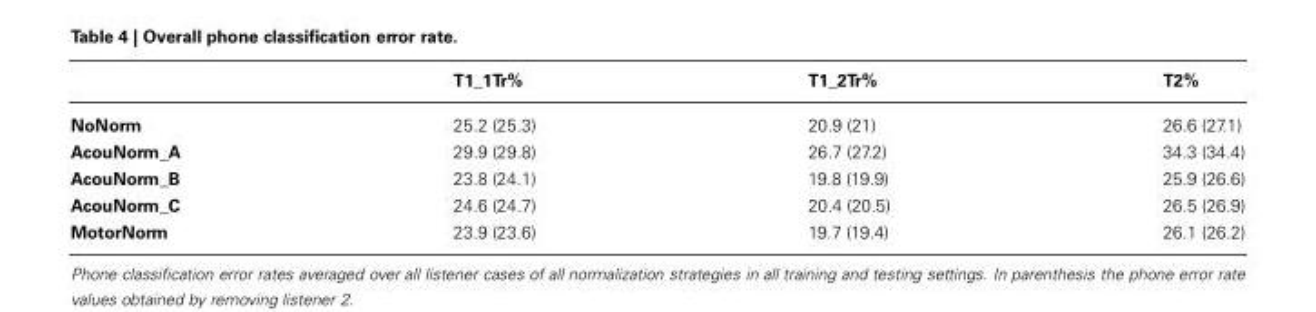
<table><thead><tr><td></td><td>T1_1Tr%</td><td>T1_2Tr%</td><td>T2%</td></tr></thead><tbody><tr><td>NoNorm</td><td>25.2 (25.3)</td><td>20.9 (21)</td><td>26.6 (27.1)</td></tr><tr><td>AcouNorm_A</td><td>29.9 (29.8)</td><td>26.7 (27.2)</td><td>34.3 (34.4)</td></tr><tr><td>AcouNorm_B</td><td>23.8 (24.1)</td><td>19.8 (19.9)</td><td>25.9 (26.6)</td></tr><tr><td>AcouNorm_C</td><td>24.6 (24.7)</td><td>20.4 (20.5)</td><td>26.5 (26.9)</td></tr><tr><td>MotorNorm</td><td>23.9 (23.6)</td><td>19.7 (19.4)</td><td>26.1 (26.2)</td></tr></tbody></table>